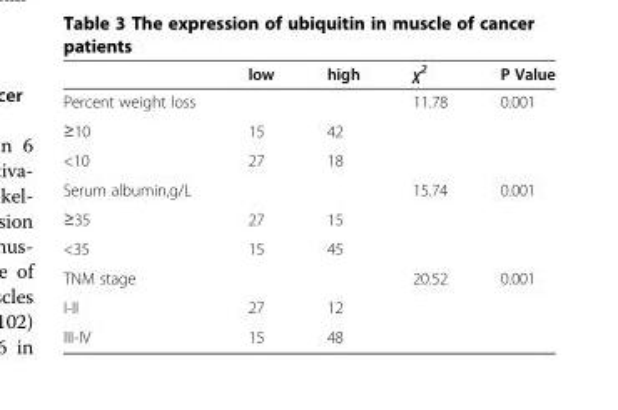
<table><thead><tr><td></td><td>low</td><td>high</td><td>χ<sup>2</sup></td><td>P Value</td></tr></thead><tbody><tr><td>Percent weight loss</td><td></td><td></td><td>11.78</td><td>0.001</td></tr><tr><td>≥10</td><td>15</td><td>42</td><td></td><td></td></tr><tr><td>&lt;10</td><td>27</td><td>18</td><td></td><td></td></tr><tr><td>Serum albumin,g/L</td><td></td><td></td><td>15.74</td><td>0.001</td></tr><tr><td>≥35</td><td>27</td><td>15</td><td></td><td></td></tr><tr><td>&lt;35</td><td>15</td><td>45</td><td></td><td></td></tr><tr><td>TNM stage</td><td></td><td></td><td>20.52</td><td>0.001</td></tr><tr><td>I-II</td><td>27</td><td>12</td><td></td><td></td></tr><tr><td>III-IV</td><td>15</td><td>48</td><td></td><td></td></tr></tbody></table>